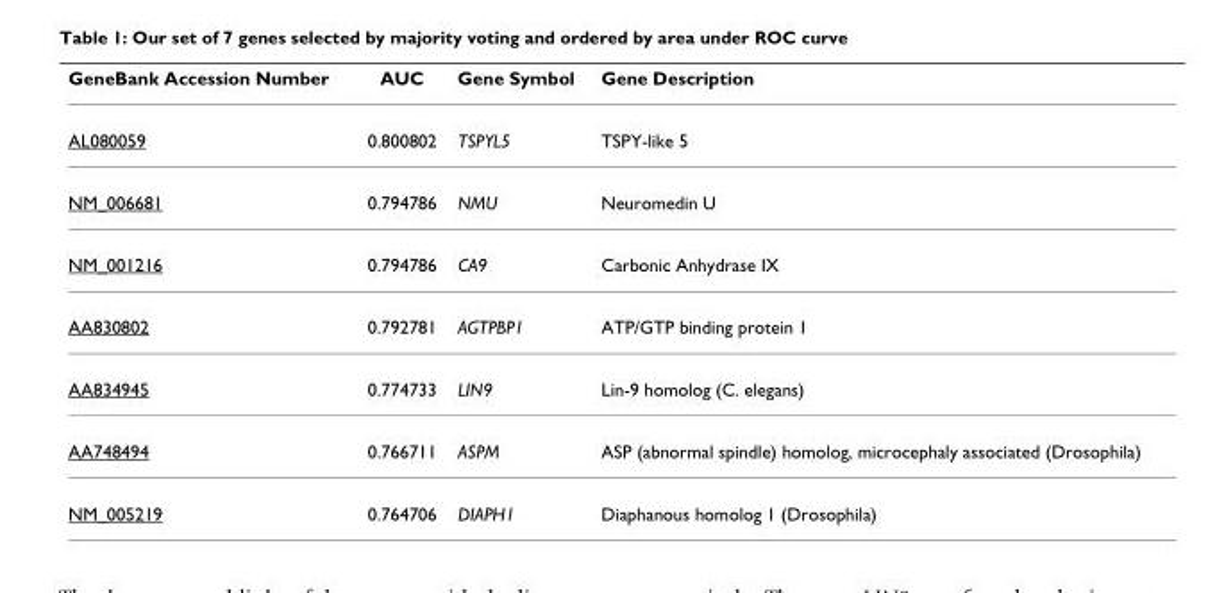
<table><thead><tr><td>GeneBank Accession Number</td><td>AUC</td><td>Gene Symbol</td><td>Gene Description</td></tr></thead><tbody><tr><td>AL080059</td><td>0.800802</td><td>TSPYL5</td><td>TSPY-like 5</td></tr><tr><td>NM_006681</td><td>0.794786</td><td>NMU</td><td>Neuromedin U</td></tr><tr><td>NM_001216</td><td>0.794786</td><td>CA9</td><td>Carbonic Anhydrase IX</td></tr><tr><td>AA830802</td><td>0.792781</td><td>AGTPBP1</td><td>ATP/GTP binding protein 1</td></tr><tr><td>AA834945</td><td>0.774733</td><td>LIN9</td><td>Lin-9 homolog (C. elegans)</td></tr><tr><td>AA748494</td><td>0.766711</td><td>ASPM</td><td>ASP (abnormal spindle) homolog, microcephaly associated (Drosophila)</td></tr><tr><td>NM_005219</td><td>0.764706</td><td>DIAPH1</td><td>Diaphanous homolog 1 (Drosophila)</td></tr></tbody></table>